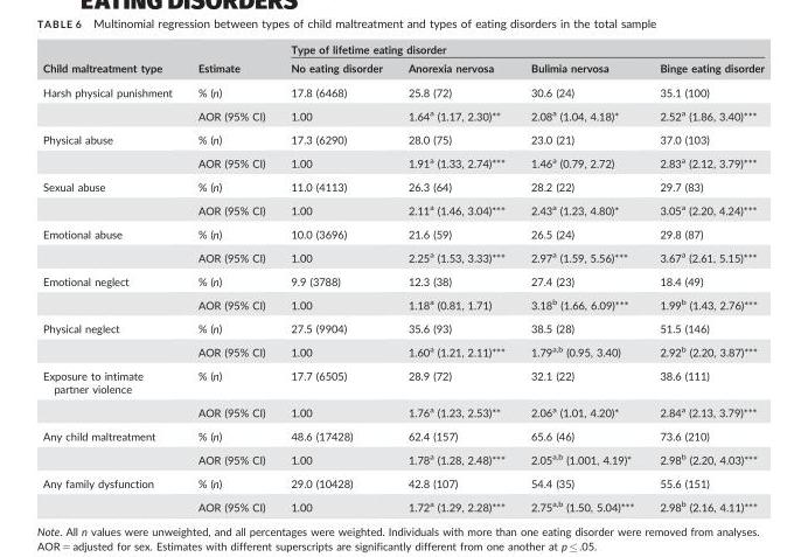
<table><thead><tr><td rowspan="2">Child maltreatment type</td><td rowspan="2">Estimate</td><td colspan="4">Type of lifetime eating disorder</td></tr><tr><td>No eating disorder</td><td>Anorexia nervosa</td><td>Bulimia nervosa</td><td>Binge eating disorder</td></tr></thead><tbody><tr><td rowspan="2">Harsh physical punishment</td><td>% (n)</td><td>17.8 (6468)</td><td>25.8 (72)</td><td>30.6 (24)</td><td>35.1 (100)</td></tr><tr><td>AOR (95% CI)</td><td>1.00</td><td>1.64<sup>a</sup> (1.17, 2.30)**</td><td>2.08<sup>a</sup> (1.04, 4.18)*</td><td>2.52<sup>a</sup> (1.86, 3.40)***</td></tr><tr><td rowspan="2">Physical abuse</td><td>% (n)</td><td>17.3 (6290)</td><td>28.0 (75)</td><td>23.0 (21)</td><td>37.0 (103)</td></tr><tr><td>AOR (95% CI)</td><td>1.00</td><td>1.91<sup>a</sup> (1.33, 2.74)***</td><td>1.46<sup>a</sup> (0.79, 2.72)</td><td>2.83<sup>a</sup> (2.12, 3.79)***</td></tr><tr><td rowspan="2">Sexual abuse</td><td>% (n)</td><td>11.0 (4113)</td><td>26.3 (64)</td><td>28.2 (22)</td><td>29.7 (83)</td></tr><tr><td>AOR (95% CI)</td><td>1.00</td><td>2.11<sup>a</sup> (1.46, 3.04)***</td><td>2.43<sup>a</sup> (1.23, 4.80)*</td><td>3.05<sup>a</sup> (2.20, 4.24)***</td></tr><tr><td rowspan="2">Emotional abuse</td><td>% (n)</td><td>10.0 (3696)</td><td>21.6 (59)</td><td>26.5 (24)</td><td>29.8 (87)</td></tr><tr><td>AOR (95% CI)</td><td>1.00</td><td>2.25<sup>a</sup> (1.53, 3.33)***</td><td>2.97<sup>a</sup> (1.59, 5.56)***</td><td>3.67<sup>a</sup> (2.61, 5.15)***</td></tr><tr><td rowspan="2">Emotional neglect</td><td>% (n)</td><td>9.9 (3788)</td><td>12.3 (38)</td><td>27.4 (23)</td><td>18.4 (49)</td></tr><tr><td>AOR (95% CI)</td><td>1.00</td><td>1.18<sup>a</sup> (0.81, 1.71)</td><td>3.18<sup>b</sup> (1.66, 6.09)***</td><td>1.99<sup>b</sup> (1.43, 2.76)***</td></tr><tr><td rowspan="2">Physical neglect</td><td>% (n)</td><td>27.5 (9904)</td><td>35.6 (93)</td><td>38.5 (28)</td><td>51.5 (146)</td></tr><tr><td>AOR (95% CI)</td><td>1.00</td><td>1.60<sup>a</sup> (1.21, 2.11)***</td><td>1.79<sup>a,b</sup> (0.95, 3.40)</td><td>2.92<sup>b</sup> (2.20, 3.87)***</td></tr><tr><td rowspan="2">Exposure to intimate partner violence</td><td>% (n)</td><td>17.7 (6505)</td><td>28.9 (72)</td><td>32.1 (22)</td><td>38.6 (111)</td></tr><tr><td>AOR (95% CI)</td><td>1.00</td><td>1.76<sup>a</sup> (1.23, 2.53)**</td><td>2.06<sup>a</sup> (1.01, 4.20)*</td><td>2.84<sup>a</sup> (2.13, 3.79)***</td></tr><tr><td rowspan="2">Any child maltreatment</td><td>% (n)</td><td>48.6 (17428)</td><td>62.4 (157)</td><td>65.6 (46)</td><td>73.6 (210)</td></tr><tr><td>AOR (95% CI)</td><td>1.00</td><td>1.78<sup>a</sup> (1.28, 2.48)***</td><td>2.05<sup>a,b</sup> (1.001, 4.19)*</td><td>2.98<sup>b</sup> (2.20, 4.03)***</td></tr><tr><td rowspan="2">Any family dysfunction</td><td>% (n)</td><td>29.0 (10428)</td><td>42.8 (107)</td><td>54.4 (35)</td><td>55.6 (151)</td></tr><tr><td>AOR (95% CI)</td><td>1.00</td><td>1.72<sup>a</sup> (1.29, 2.28)***</td><td>2.75<sup>a,b</sup> (1.50, 5.04)***</td><td>2.98<sup>b</sup> (2.16, 4.11)***</td></tr></tbody></table>